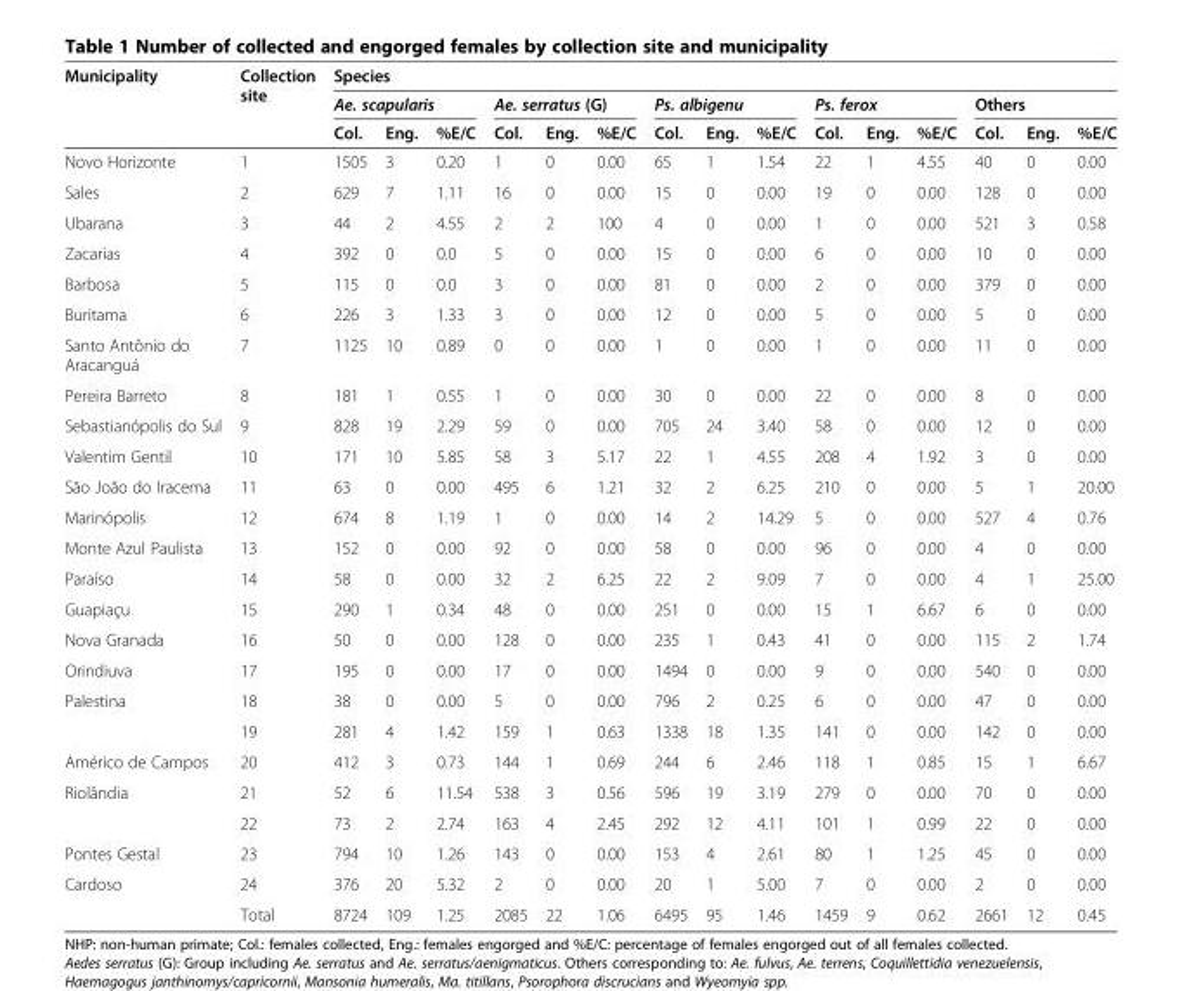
<table><thead><tr><td rowspan="3">Municipality</td><td rowspan="3">Collection site</td><td colspan="15">Species</td></tr><tr><td colspan="3">Ae. scapularis</td><td colspan="3">Ae. serratus (G)</td><td colspan="3">Ps. albigenu</td><td colspan="3">Ps. ferox</td><td colspan="3">Others</td></tr><tr><td>Col.</td><td>Eng.</td><td>%E/C</td><td>Col.</td><td>Eng.</td><td>%E/C</td><td>Col.</td><td>Eng.</td><td>%E/C</td><td>Col.</td><td>Eng.</td><td>%E/C</td><td>Col.</td><td>Eng.</td><td>%E/C</td></tr></thead><tbody><tr><td>Novo Horizonte</td><td>1</td><td>1505</td><td>3</td><td>0.20</td><td>1</td><td>0</td><td>0.00</td><td>65</td><td>1</td><td>1.54</td><td>22</td><td>1</td><td>4.55</td><td>40</td><td>0</td><td>0.00</td></tr><tr><td>Sales</td><td>2</td><td>629</td><td>7</td><td>1.11</td><td>16</td><td>0</td><td>0.00</td><td>15</td><td>0</td><td>0.00</td><td>19</td><td>0</td><td>0.00</td><td>128</td><td>0</td><td>0.00</td></tr><tr><td>Ubarana</td><td>3</td><td>44</td><td>2</td><td>4.55</td><td>2</td><td>2</td><td>100</td><td>4</td><td>0</td><td>0.00</td><td>1</td><td>0</td><td>0.00</td><td>521</td><td>3</td><td>0.58</td></tr><tr><td>Zacarias</td><td>4</td><td>392</td><td>0</td><td>0.0</td><td>5</td><td>0</td><td>0.00</td><td>15</td><td>0</td><td>0.00</td><td>6</td><td>0</td><td>0.00</td><td>10</td><td>0</td><td>0.00</td></tr><tr><td>Barbosa</td><td>5</td><td>115</td><td>0</td><td>0.0</td><td>3</td><td>0</td><td>0.00</td><td>81</td><td>0</td><td>0.00</td><td>2</td><td>0</td><td>0.00</td><td>379</td><td>0</td><td>0.00</td></tr><tr><td>Buritama</td><td>6</td><td>226</td><td>3</td><td>1.33</td><td>3</td><td>0</td><td>0.00</td><td>12</td><td>0</td><td>0.00</td><td>5</td><td>0</td><td>0.00</td><td>5</td><td>0</td><td>0.00</td></tr><tr><td>Santo Antônio do Aracanguá</td><td>7</td><td>1125</td><td>10</td><td>0.89</td><td>0</td><td>0</td><td>0.00</td><td>1</td><td>0</td><td>0.00</td><td>1</td><td>0</td><td>0.00</td><td>11</td><td>0</td><td>0.00</td></tr><tr><td>Pereira Barreto</td><td>8</td><td>181</td><td>1</td><td>0.55</td><td>1</td><td>0</td><td>0.00</td><td>30</td><td>0</td><td>0.00</td><td>22</td><td>0</td><td>0.00</td><td>8</td><td>0</td><td>0.00</td></tr><tr><td>Sebastianópolis do Sul</td><td>9</td><td>828</td><td>19</td><td>2.29</td><td>59</td><td>0</td><td>0.00</td><td>705</td><td>24</td><td>3.40</td><td>58</td><td>0</td><td>0.00</td><td>12</td><td>0</td><td>0.00</td></tr><tr><td>Valentim Gentil</td><td>10</td><td>171</td><td>10</td><td>5.85</td><td>58</td><td>3</td><td>5.17</td><td>22</td><td>1</td><td>4.55</td><td>208</td><td>4</td><td>1.92</td><td>3</td><td>0</td><td>0.00</td></tr><tr><td>São João do Iracema</td><td>11</td><td>63</td><td>0</td><td>0.00</td><td>495</td><td>6</td><td>1.21</td><td>32</td><td>2</td><td>6.25</td><td>210</td><td>0</td><td>0.00</td><td>5</td><td>1</td><td>20.00</td></tr><tr><td>Marinópolis</td><td>12</td><td>674</td><td>8</td><td>1.19</td><td>1</td><td>0</td><td>0.00</td><td>14</td><td>2</td><td>14.29</td><td>5</td><td>0</td><td>0.00</td><td>527</td><td>4</td><td>0.76</td></tr><tr><td>Monte Azul Paulista</td><td>13</td><td>152</td><td>0</td><td>0.00</td><td>92</td><td>0</td><td>0.00</td><td>58</td><td>0</td><td>0.00</td><td>96</td><td>0</td><td>0.00</td><td>4</td><td>0</td><td>0.00</td></tr><tr><td>Paraíso</td><td>14</td><td>58</td><td>0</td><td>0.00</td><td>32</td><td>2</td><td>6.25</td><td>22</td><td>2</td><td>9.09</td><td>7</td><td>0</td><td>0.00</td><td>4</td><td>1</td><td>25.00</td></tr><tr><td>Guapiaçu</td><td>15</td><td>290</td><td>1</td><td>0.34</td><td>48</td><td>0</td><td>0.00</td><td>251</td><td>0</td><td>0.00</td><td>15</td><td>1</td><td>6.67</td><td>6</td><td>0</td><td>0.00</td></tr><tr><td>Nova Granada</td><td>16</td><td>50</td><td>0</td><td>0.00</td><td>128</td><td>0</td><td>0.00</td><td>235</td><td>1</td><td>0.43</td><td>41</td><td>0</td><td>0.00</td><td>115</td><td>2</td><td>1.74</td></tr><tr><td>Orindiuva</td><td>17</td><td>195</td><td>0</td><td>0.00</td><td>17</td><td>0</td><td>0.00</td><td>1494</td><td>0</td><td>0.00</td><td>9</td><td>0</td><td>0.00</td><td>540</td><td>0</td><td>0.00</td></tr><tr><td rowspan="2">Palestina</td><td>18</td><td>38</td><td>0</td><td>0.00</td><td>5</td><td>0</td><td>0.00</td><td>796</td><td>2</td><td>0.25</td><td>6</td><td>0</td><td>0.00</td><td>47</td><td>0</td><td>0.00</td></tr><tr><td>19</td><td>281</td><td>4</td><td>1.42</td><td>159</td><td>1</td><td>0.63</td><td>1338</td><td>18</td><td>1.35</td><td>141</td><td>0</td><td>0.00</td><td>142</td><td>0</td><td>0.00</td></tr><tr><td>Américo de Campos</td><td>20</td><td>412</td><td>3</td><td>0.73</td><td>144</td><td>1</td><td>0.69</td><td>244</td><td>6</td><td>2.46</td><td>118</td><td>1</td><td>0.85</td><td>15</td><td>1</td><td>6.67</td></tr><tr><td rowspan="2">Riolândia</td><td>21</td><td>52</td><td>6</td><td>11.54</td><td>538</td><td>3</td><td>0.56</td><td>596</td><td>19</td><td>3.19</td><td>279</td><td>0</td><td>0.00</td><td>70</td><td>0</td><td>0.00</td></tr><tr><td>22</td><td>73</td><td>2</td><td>2.74</td><td>163</td><td>4</td><td>2.45</td><td>292</td><td>12</td><td>4.11</td><td>101</td><td>1</td><td>0.99</td><td>22</td><td>0</td><td>0.00</td></tr><tr><td>Pontes Gestal</td><td>23</td><td>794</td><td>10</td><td>1.26</td><td>143</td><td>0</td><td>0.00</td><td>153</td><td>4</td><td>2.61</td><td>80</td><td>1</td><td>1.25</td><td>45</td><td>0</td><td>0.00</td></tr><tr><td rowspan="2">Cardoso</td><td>24</td><td>376</td><td>20</td><td>5.32</td><td>2</td><td>0</td><td>0.00</td><td>20</td><td>1</td><td>5.00</td><td>7</td><td>0</td><td>0.00</td><td>2</td><td>0</td><td>0.00</td></tr><tr><td>Total</td><td>8724</td><td>109</td><td>1.25</td><td>2085</td><td>22</td><td>1.06</td><td>6495</td><td>95</td><td>1.46</td><td>1459</td><td>9</td><td>0.62</td><td>2661</td><td>12</td><td>0.45</td></tr></tbody></table>